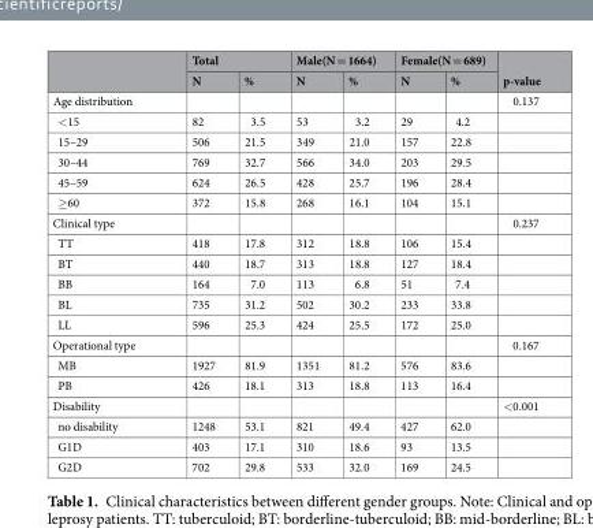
<table><thead><tr><td rowspan="2"></td><td colspan="2">Total</td><td colspan="2">Male(N = 1664)</td><td colspan="2">Female(N = 689)</td><td rowspan="2">p-value</td></tr><tr><td>N</td><td>%</td><td>N</td><td>%</td><td>N</td><td>%</td></tr></thead><tbody><tr><td>Age distribution</td><td></td><td></td><td></td><td></td><td></td><td></td><td>0.137</td></tr><tr><td>&lt;15</td><td>82</td><td>3.5</td><td>53</td><td>3.2</td><td>29</td><td>4.2</td><td></td></tr><tr><td>15–29</td><td>506</td><td>21.5</td><td>349</td><td>21.0</td><td>157</td><td>22.8</td><td></td></tr><tr><td>30–44</td><td>769</td><td>32.7</td><td>566</td><td>34.0</td><td>203</td><td>29.5</td><td></td></tr><tr><td>45–59</td><td>624</td><td>26.5</td><td>428</td><td>25.7</td><td>196</td><td>28.4</td><td></td></tr><tr><td>≥60</td><td>372</td><td>15.8</td><td>268</td><td>16.1</td><td>104</td><td>15.1</td><td></td></tr><tr><td>Clinical type</td><td></td><td></td><td></td><td></td><td></td><td></td><td>0.237</td></tr><tr><td>TT</td><td>418</td><td>17.8</td><td>312</td><td>18.8</td><td>106</td><td>15.4</td><td></td></tr><tr><td>BT</td><td>440</td><td>18.7</td><td>313</td><td>18.8</td><td>127</td><td>18.4</td><td></td></tr><tr><td>BB</td><td>164</td><td>7.0</td><td>113</td><td>6.8</td><td>51</td><td>7.4</td><td></td></tr><tr><td>BL</td><td>735</td><td>31.2</td><td>502</td><td>30.2</td><td>233</td><td>33.8</td><td></td></tr><tr><td>LL</td><td>596</td><td>25.3</td><td>424</td><td>25.5</td><td>172</td><td>25.0</td><td></td></tr><tr><td>Operational type</td><td></td><td></td><td></td><td></td><td></td><td></td><td>0.167</td></tr><tr><td>MB</td><td>1927</td><td>81.9</td><td>1351</td><td>81.2</td><td>576</td><td>83.6</td><td></td></tr><tr><td>PB</td><td>426</td><td>18.1</td><td>313</td><td>18.8</td><td>113</td><td>16.4</td><td></td></tr><tr><td>Disability</td><td></td><td></td><td></td><td></td><td></td><td></td><td>&lt;0.001</td></tr><tr><td>no disability</td><td>1248</td><td>53.1</td><td>821</td><td>49.4</td><td>427</td><td>62.0</td><td></td></tr><tr><td>G1D</td><td>403</td><td>17.1</td><td>310</td><td>18.6</td><td>93</td><td>13.5</td><td></td></tr><tr><td>G2D</td><td>702</td><td>29.8</td><td>533</td><td>32.0</td><td>169</td><td>24.5</td><td></td></tr></tbody></table>